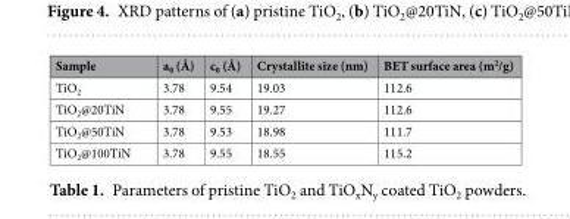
<table><thead><tr><td>Sample</td><td>a<sub>0</sub> (Å)</td><td>c<sub>0</sub> (Å)</td><td>Crystallite size (nm)</td><td>BET surface area (m<sup>2</sup>/g)</td></tr></thead><tbody><tr><td>TiO<sub>2</sub></td><td>3.78</td><td>9.54</td><td>19.03</td><td>112.6</td></tr><tr><td>TiO<sub>2</sub>@20TiN</td><td>3.78</td><td>9.55</td><td>19.27</td><td>112.6</td></tr><tr><td>TiO<sub>2</sub>@50TiN</td><td>3.78</td><td>9.53</td><td>18.98</td><td>111.7</td></tr><tr><td>TiO<sub>2</sub>@100TiN</td><td>3.78</td><td>9.55</td><td>18.55</td><td>115.2</td></tr></tbody></table>